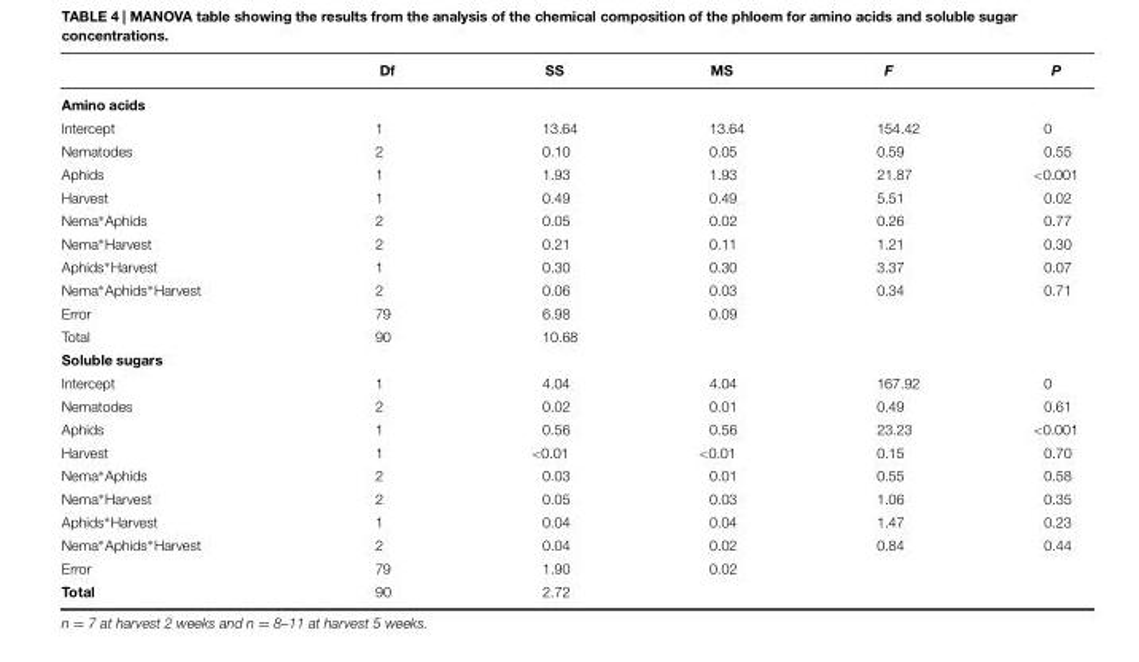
<table><thead><tr><td></td><td>Df</td><td>SS</td><td>MS</td><td>F</td><td>P</td></tr></thead><tbody><tr><td colspan="6">Amino acids</td></tr><tr><td>Intercept</td><td>1</td><td>13.64</td><td>13.64</td><td>154.42</td><td>0</td></tr><tr><td>Nematodes</td><td>2</td><td>0.10</td><td>0.05</td><td>0.59</td><td>0.55</td></tr><tr><td>Aphids</td><td>1</td><td>1.93</td><td>1.93</td><td>21.87</td><td>&lt;0.001</td></tr><tr><td>Harvest</td><td>1</td><td>0.49</td><td>0.49</td><td>5.51</td><td>0.02</td></tr><tr><td>Nema∗Aphids</td><td>2</td><td>0.05</td><td>0.02</td><td>0.26</td><td>0.77</td></tr><tr><td>Nema∗Harvest</td><td>2</td><td>0.21</td><td>0.11</td><td>1.21</td><td>0.30</td></tr><tr><td>Aphids∗Harvest</td><td>1</td><td>0.30</td><td>0.30</td><td>3.37</td><td>0.07</td></tr><tr><td>Nema∗Aphids∗Harvest</td><td>2</td><td>0.06</td><td>0.03</td><td>0.34</td><td>0.71</td></tr><tr><td>Error</td><td>79</td><td>6.98</td><td>0.09</td><td></td><td></td></tr><tr><td>Total</td><td>90</td><td>10.68</td><td></td><td></td><td></td></tr><tr><td colspan="6">Soluble sugars</td></tr><tr><td>Intercept</td><td>1</td><td>4.04</td><td>4.04</td><td>167.92</td><td>0</td></tr><tr><td>Nematodes</td><td>2</td><td>0.02</td><td>0.01</td><td>0.49</td><td>0.61</td></tr><tr><td>Aphids</td><td>1</td><td>0.56</td><td>0.56</td><td>23.23</td><td>&lt;0.001</td></tr><tr><td>Harvest</td><td>1</td><td>&lt;0.01</td><td>&lt;0.01</td><td>0.15</td><td>0.70</td></tr><tr><td>Nema∗Aphids</td><td>2</td><td>0.03</td><td>0.01</td><td>0.55</td><td>0.58</td></tr><tr><td>Nema∗Harvest</td><td>2</td><td>0.05</td><td>0.03</td><td>1.06</td><td>0.35</td></tr><tr><td>Aphids∗Harvest</td><td>1</td><td>0.04</td><td>0.04</td><td>1.47</td><td>0.23</td></tr><tr><td>Nema∗Aphids∗Harvest</td><td>2</td><td>0.04</td><td>0.02</td><td>0.84</td><td>0.44</td></tr><tr><td>Error</td><td>79</td><td>1.90</td><td>0.02</td><td></td><td></td></tr><tr><td>Total</td><td>90</td><td>2.72</td><td></td><td></td><td></td></tr></tbody></table>